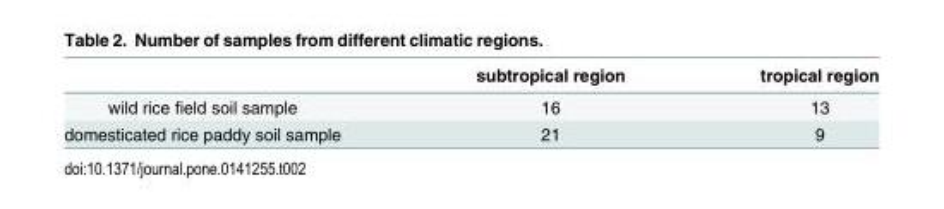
<table><thead><tr><td></td><td>subtropical region</td><td>tropical region</td></tr></thead><tbody><tr><td>wild rice field soil sample</td><td>16</td><td>13</td></tr><tr><td>domesticated rice paddy soil sample</td><td>21</td><td>9</td></tr></tbody></table>